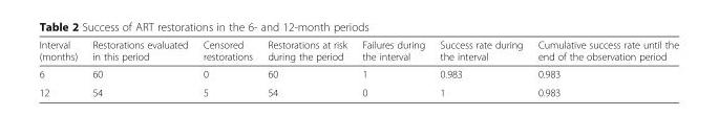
<table><thead><tr><td>Interval (months)</td><td>Restorations evaluated in this period</td><td>Censored restorations</td><td>Restorations at risk during the period</td><td>Failures during the interval</td><td>Success rate during the interval</td><td>Cumulative success rate until the end of the observation period</td></tr></thead><tbody><tr><td>6</td><td>60</td><td>0</td><td>60</td><td>1</td><td>0.983</td><td>0.983</td></tr><tr><td>12</td><td>54</td><td>5</td><td>54</td><td>0</td><td>1</td><td>0.983</td></tr></tbody></table>